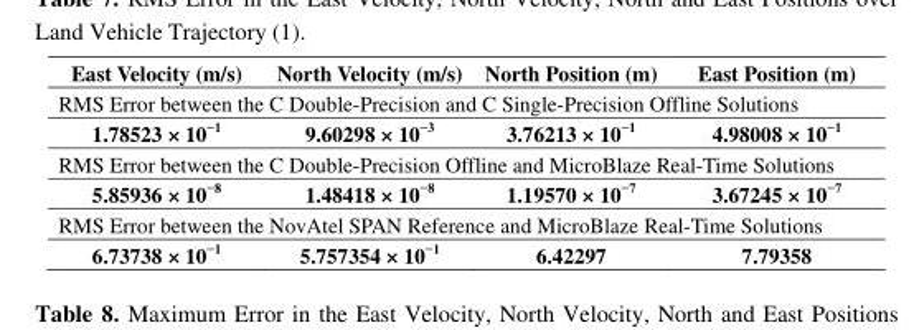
<table><thead><tr><td>East Velocity (m/s)</td><td>North Velocity (m/s)</td><td>North Position (m)</td><td>East Position (m)</td></tr></thead><tbody><tr><td colspan="4">RMS Error between the C Double-Precision and C Single-Precision Offline Solutions</td></tr><tr><td>1.78523 × 10<sup>−1</sup></td><td>9.60298 × 10<sup>−3</sup></td><td>3.76213 × 10<sup>−1</sup></td><td>4.98008 × 10<sup>−1</sup></td></tr><tr><td colspan="4">RMS Error between the C Double-Precision Offline and MicroBlaze Real-Time Solutions</td></tr><tr><td>5.85936 × 10<sup>−8</sup></td><td>1.48418 × 10<sup>−8</sup></td><td>1.19570 × 10<sup>−7</sup></td><td>3.67245 × 10<sup>−7</sup></td></tr><tr><td colspan="4">RMS Error between the NovAtel SPAN Reference and MicroBlaze Real-Time Solutions</td></tr><tr><td>6.73738 × 10<sup>−1</sup></td><td>5.757354 × 10<sup>−1</sup></td><td>6.42297</td><td>7.79358</td></tr></tbody></table>